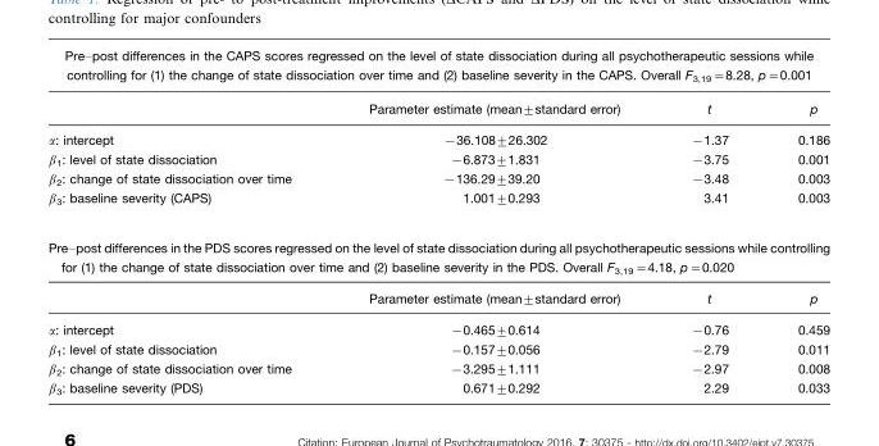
<table><tbody><tr><td colspan="4">Pre–post differences in the CAPS scores regressed on the level of state dissociation during all psychotherapeutic sessions while controlling for (1) the change of state dissociation over time and (2) baseline severity in the CAPS. Overall F<sub>3,19</sub>=8.28, p=0.001</td></tr><tr><td></td><td>Parameter estimate (mean±standard error)</td><td>t</td><td>p</td></tr><tr><td>α: intercept</td><td>−36.108±26.302</td><td>−1.37</td><td>0.186</td></tr><tr><td>β<sub>1</sub>: level of state dissociation</td><td>−6.873±1.831</td><td>−3.75</td><td>0.001</td></tr><tr><td>β<sub>2</sub>: change of state dissociation over time</td><td>−136.29±39.20</td><td>−3.48</td><td>0.003</td></tr><tr><td>β<sub>3</sub>: baseline severity (CAPS)</td><td>1.001±0.293</td><td>3.41</td><td>0.003</td></tr><tr><td colspan="4">Pre–post differences in the PDS scores regressed on the level of state dissociation during all psychotherapeutic sessions while controlling for (1) the change of state dissociation over time and (2) baseline severity in the PDS. Overall F<sub>3,19</sub>=4.18, p=0.020</td></tr><tr><td></td><td>Parameter estimate (mean±standard error)</td><td>t</td><td>p</td></tr><tr><td>α: intercept</td><td>−0.465±0.614</td><td>−0.76</td><td>0.459</td></tr><tr><td>β<sub>1</sub>: level of state dissociation</td><td>−0.157±0.056</td><td>−2.79</td><td>0.011</td></tr><tr><td>β<sub>2</sub>: change of state dissociation over time</td><td>−3.295±1.111</td><td>−2.97</td><td>0.008</td></tr><tr><td>β<sub>3</sub>: baseline severity (PDS)</td><td>0.671±0.292</td><td>2.29</td><td>0.033</td></tr></tbody></table>